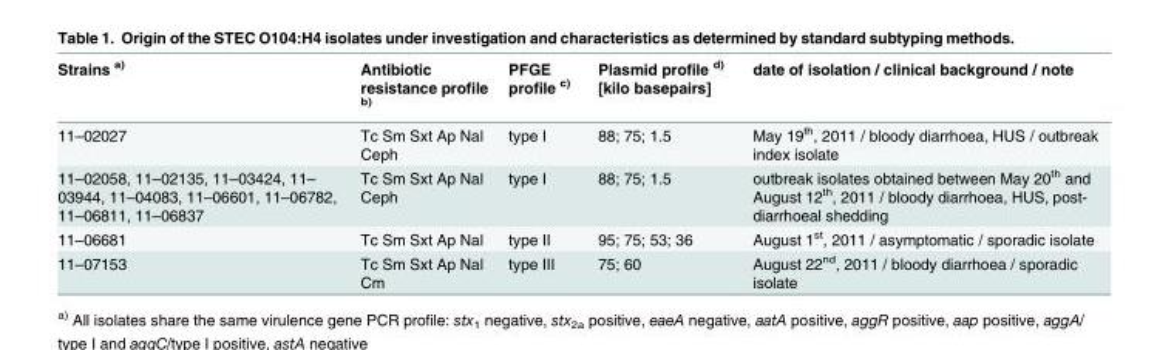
<table><thead><tr><td>Strains <sup>a)</sup></td><td>Antibiotic resistance profile <sup>b)</sup></td><td>PFGE profile <sup>c)</sup></td><td>Plasmid profile <sup>d)</sup> [kilo basepairs]</td><td>date of isolation / clinical background / note</td></tr></thead><tbody><tr><td>11–02027</td><td>Tc Sm Sxt Ap Nal Ceph</td><td>type I</td><td>88; 75; 1.5</td><td>May 19<sup>th</sup>, 2011 / bloody diarrhoea, HUS / outbreak index isolate</td></tr><tr><td>11–02058, 11–02135, 11–03424, 11– 03944, 11–04083, 11–06601, 11–06782, 11–06811, 11–06837</td><td>Tc Sm Sxt Ap Nal Ceph</td><td>type I</td><td>88; 75; 1.5</td><td>outbreak isolates obtained between May 20<sup>th</sup> and August 12<sup>th</sup>, 2011 / bloody diarrhoea, HUS, post- diarrhoeal shedding</td></tr><tr><td>11–06681</td><td>Tc Sm Sxt Ap Nal</td><td>type II</td><td>95; 75; 53; 36</td><td>August 1<sup>st</sup>, 2011 / asymptomatic / sporadic isolate</td></tr><tr><td>11–07153</td><td>Tc Sm Sxt Ap Nal Cm</td><td>type III</td><td>75; 60</td><td>August 22<sup>nd</sup>, 2011 / bloody diarrhoea / sporadic isolate</td></tr></tbody></table>